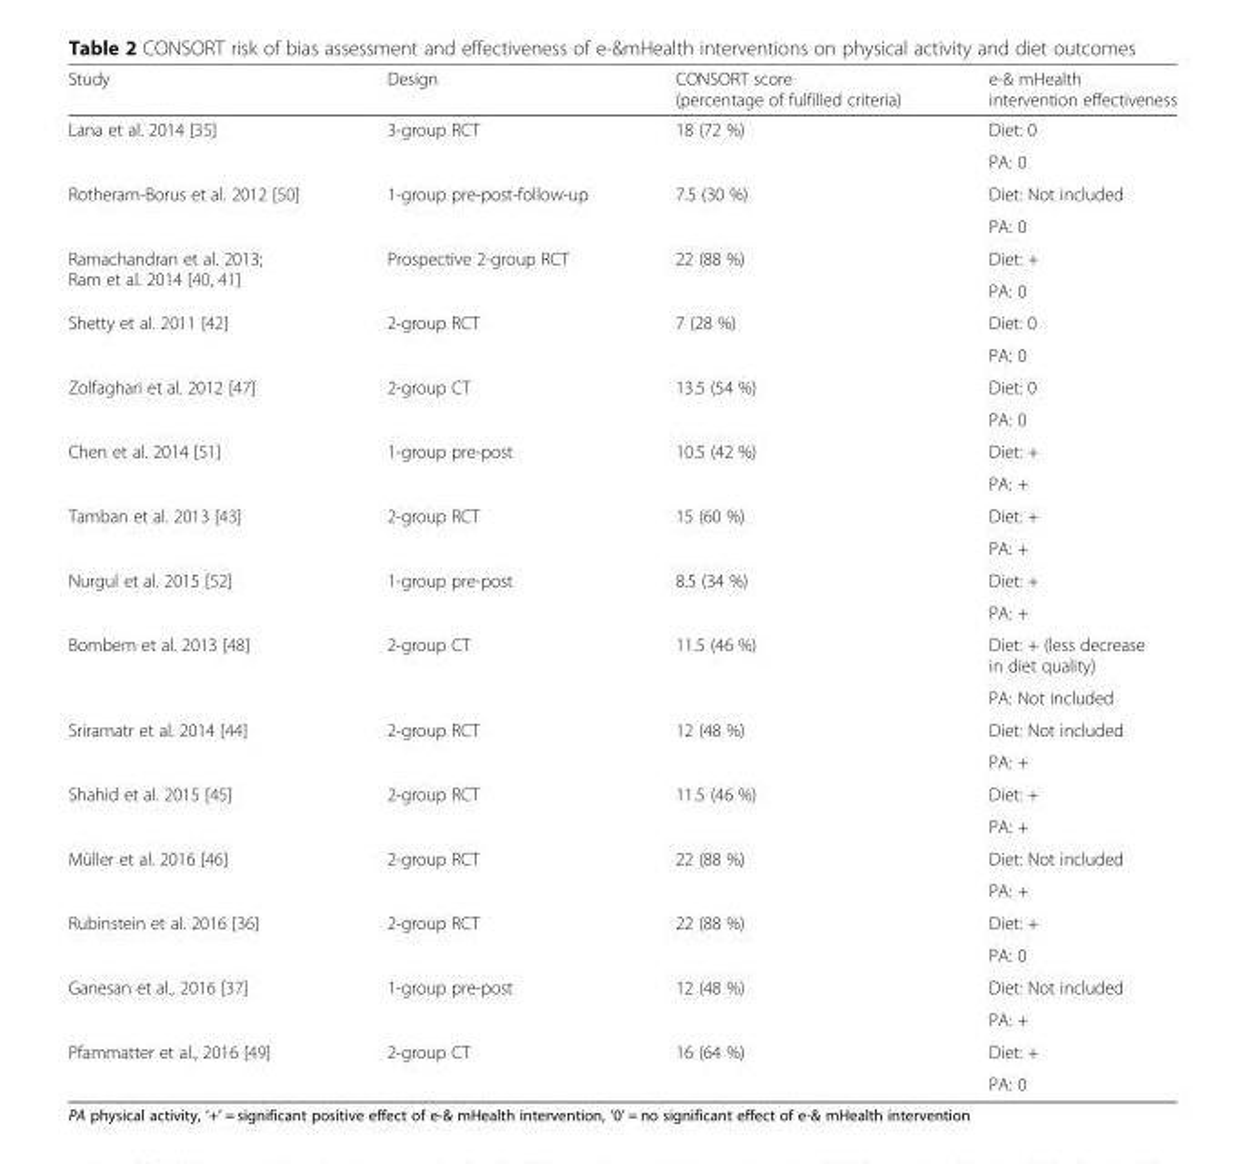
<table><thead><tr><td>Study</td><td>Design</td><td>CONSORT score (percentage of fulfilled criteria)</td><td>e-&amp; mHealth intervention effectiveness</td></tr></thead><tbody><tr><td rowspan="2">Lana et al. 2014 [35]</td><td rowspan="2">3-group RCT</td><td rowspan="2">18 (72 %)</td><td>Diet: 0</td></tr><tr><td>PA: 0</td></tr><tr><td rowspan="2">Rotheram-Borus et al. 2012 [50]</td><td rowspan="2">1-group pre-post-follow-up</td><td rowspan="2">7.5 (30 %)</td><td>Diet: Not included</td></tr><tr><td>PA: 0</td></tr><tr><td rowspan="2">Ramachandran et al. 2013; Ram et al. 2014 [40, 41]</td><td rowspan="2">Prospective 2-group RCT</td><td rowspan="2">22 (88 %)</td><td>Diet: +</td></tr><tr><td>PA: 0</td></tr><tr><td rowspan="2">Shetty et al. 2011 [42]</td><td rowspan="2">2-group RCT</td><td rowspan="2">7 (28 %)</td><td>Diet: 0</td></tr><tr><td>PA: 0</td></tr><tr><td rowspan="2">Zolfaghari et al. 2012 [47]</td><td rowspan="2">2-group CT</td><td rowspan="2">13.5 (54 %)</td><td>Diet: 0</td></tr><tr><td>PA: 0</td></tr><tr><td rowspan="2">Chen et al. 2014 [51]</td><td rowspan="2">1-group pre-post</td><td rowspan="2">10.5 (42 %)</td><td>Diet: +</td></tr><tr><td>PA: +</td></tr><tr><td rowspan="2">Tamban et al. 2013 [43]</td><td rowspan="2">2-group RCT</td><td rowspan="2">15 (60 %)</td><td>Diet: +</td></tr><tr><td>PA: +</td></tr><tr><td rowspan="2">Nurgul et al. 2015 [52]</td><td rowspan="2">1-group pre-post</td><td rowspan="2">8.5 (34 %)</td><td>Diet: +</td></tr><tr><td>PA: +</td></tr><tr><td rowspan="2">Bombem et al. 2013 [48]</td><td rowspan="2">2-group CT</td><td rowspan="2">11.5 (46 %)</td><td>Diet: + (less decrease in diet quality)</td></tr><tr><td>PA: Not included</td></tr><tr><td rowspan="2">Sriramatr et al. 2014 [44]</td><td rowspan="2">2-group RCT</td><td rowspan="2">12 (48 %)</td><td>Diet: Not included</td></tr><tr><td>PA: +</td></tr><tr><td rowspan="2">Shahid et al. 2015 [45]</td><td rowspan="2">2-group RCT</td><td rowspan="2">11.5 (46 %)</td><td>Diet: +</td></tr><tr><td>PA: +</td></tr><tr><td rowspan="2">Müller et al. 2016 [46]</td><td rowspan="2">2-group RCT</td><td rowspan="2">22 (88 %)</td><td>Diet: Not included</td></tr><tr><td>PA: +</td></tr><tr><td rowspan="2">Rubinstein et al. 2016 [36]</td><td rowspan="2">2-group RCT</td><td rowspan="2">22 (88 %)</td><td>Diet: +</td></tr><tr><td>PA: 0</td></tr><tr><td rowspan="2">Ganesan et al., 2016 [37]</td><td rowspan="2">1-group pre-post</td><td rowspan="2">12 (48 %)</td><td>Diet: Not included</td></tr><tr><td>PA: +</td></tr><tr><td rowspan="2">Pfammatter et al., 2016 [49]</td><td rowspan="2">2-group CT</td><td rowspan="2">16 (64 %)</td><td>Diet: +</td></tr><tr><td>PA: 0</td></tr></tbody></table>